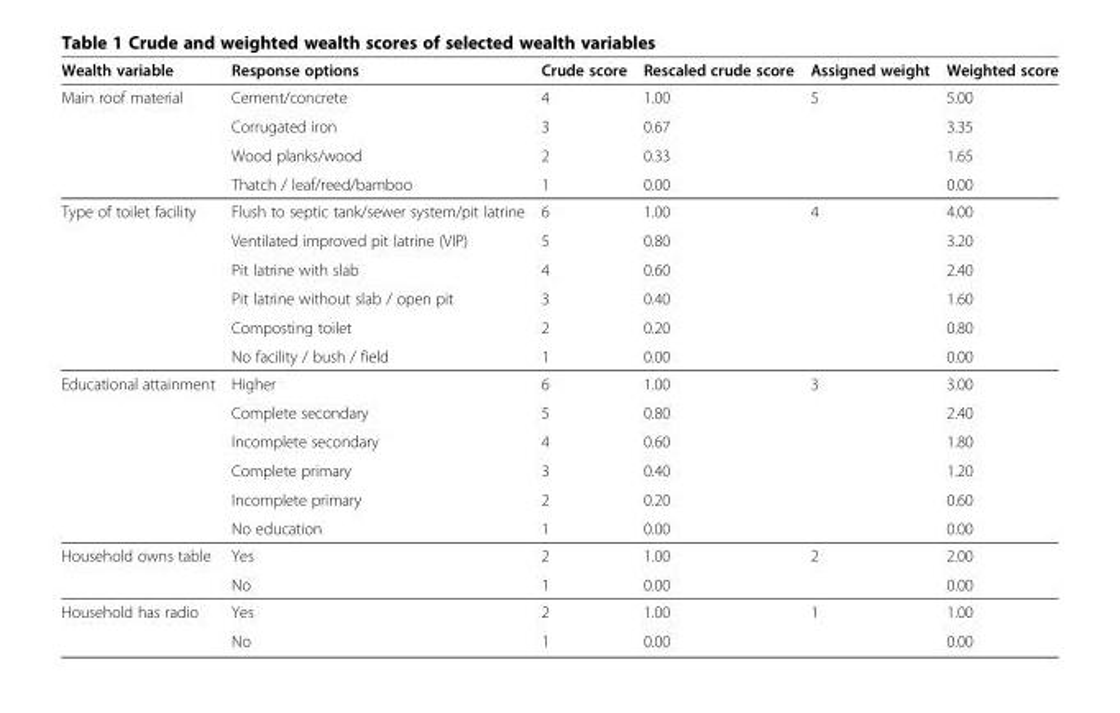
<table><thead><tr><td>Wealth variable</td><td>Response options</td><td>Crude score</td><td>Rescaled crude score</td><td>Assigned weight</td><td>Weighted score</td></tr></thead><tbody><tr><td rowspan="4">Main roof material</td><td>Cement/concrete</td><td>4</td><td>1.00</td><td>5</td><td>5.00</td></tr><tr><td>Corrugated iron</td><td>3</td><td>0.67</td><td></td><td>3.35</td></tr><tr><td>Wood planks/wood</td><td>2</td><td>0.33</td><td></td><td>1.65</td></tr><tr><td>Thatch / leaf/reed/bamboo</td><td>1</td><td>0.00</td><td></td><td>0.00</td></tr><tr><td rowspan="6">Type of toilet facility</td><td>Flush to septic tank/sewer system/pit latrine</td><td>6</td><td>1.00</td><td>4</td><td>4.00</td></tr><tr><td>Ventilated improved pit latrine (VIP)</td><td>5</td><td>0.80</td><td></td><td>3.20</td></tr><tr><td>Pit latrine with slab</td><td>4</td><td>0.60</td><td></td><td>2.40</td></tr><tr><td>Pit latrine without slab / open pit</td><td>3</td><td>0.40</td><td></td><td>1.60</td></tr><tr><td>Composting toilet</td><td>2</td><td>0.20</td><td></td><td>0.80</td></tr><tr><td>No facility / bush / field</td><td>1</td><td>0.00</td><td></td><td>0.00</td></tr><tr><td rowspan="6">Educational attainment</td><td>Higher</td><td>6</td><td>1.00</td><td>3</td><td>3.00</td></tr><tr><td>Complete secondary</td><td>5</td><td>0.80</td><td></td><td>2.40</td></tr><tr><td>Incomplete secondary</td><td>4</td><td>0.60</td><td></td><td>1.80</td></tr><tr><td>Complete primary</td><td>3</td><td>0.40</td><td></td><td>1.20</td></tr><tr><td>Incomplete primary</td><td>2</td><td>0.20</td><td></td><td>0.60</td></tr><tr><td>No education</td><td>1</td><td>0.00</td><td></td><td>0.00</td></tr><tr><td rowspan="2">Household owns table</td><td>Yes</td><td>2</td><td>1.00</td><td>2</td><td>2.00</td></tr><tr><td>No</td><td>1</td><td>0.00</td><td></td><td>0.00</td></tr><tr><td rowspan="2">Household has radio</td><td>Yes</td><td>2</td><td>1.00</td><td>1</td><td>1.00</td></tr><tr><td>No</td><td>1</td><td>0.00</td><td></td><td>0.00</td></tr></tbody></table>